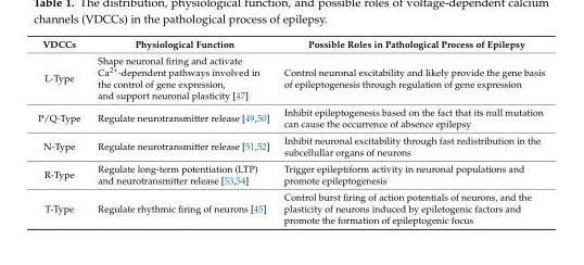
<table><thead><tr><td>VDCCs</td><td>Physiological Function</td><td>Possible Roles in Pathological Process of Epilepsy</td></tr></thead><tbody><tr><td>L-Type</td><td>Shape neuronal firing and activate Ca<sup>2+</sup>-dependent pathways involved in the control of gene expression, and support neuronal plasticity [47]</td><td>Control neuronal excitability and likely provide the gene basis of epileptogenesis through regulation of gene expression</td></tr><tr><td>P/Q-Type</td><td>Regulate neurotransmitter release [49,50]</td><td>Inhibit epileptogenesis based on the fact that its null mutation can cause the occurrence of absence epilepsy</td></tr><tr><td>N-Type</td><td>Regulate neurotransmitter release [51,52]</td><td>Inhibit neuronal excitability through fast redistribution in the subcellullar organs of neurons</td></tr><tr><td>R-Type</td><td>Regulate long-term potentiation (LTP) and neurotransmitter release [53,54]</td><td>Trigger epileptiform activity in neuronal populations and promote epileptogenesis</td></tr><tr><td>T-Type</td><td>Regulate rhythmic firing of neurons [45]</td><td>Control burst firing of action potentials of neurons, and the plasticity of neurons induced by epiletogenic factors and promote the formation of epileptogenic focus</td></tr></tbody></table>